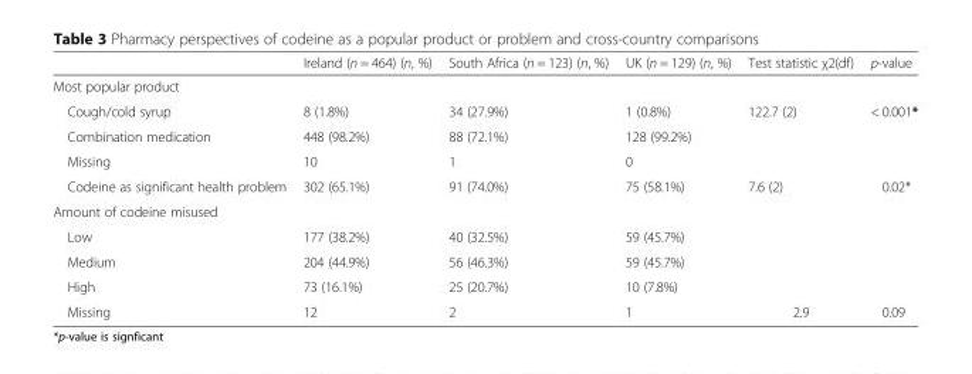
<table><thead><tr><td></td><td>Ireland (n = 464) (n, %)</td><td>South Africa (n = 123) (n, %)</td><td>UK (n = 129) (n, %)</td><td>Test statistic χ2(df)</td><td>p-value</td></tr></thead><tbody><tr><td colspan="6">Most popular product</td></tr><tr><td>Cough/cold syrup</td><td>8 (1.8%)</td><td>34 (27.9%)</td><td>1 (0.8%)</td><td>122.7 (2)</td><td>&lt; 0.001*</td></tr><tr><td>Combination medication</td><td>448 (98.2%)</td><td>88 (72.1%)</td><td>128 (99.2%)</td><td></td><td></td></tr><tr><td>Missing</td><td>10</td><td>1</td><td>0</td><td></td><td></td></tr><tr><td>Codeine as significant health problem</td><td>302 (65.1%)</td><td>91 (74.0%)</td><td>75 (58.1%)</td><td>7.6 (2)</td><td>0.02*</td></tr><tr><td colspan="6">Amount of codeine misused</td></tr><tr><td>Low</td><td>177 (38.2%)</td><td>40 (32.5%)</td><td>59 (45.7%)</td><td></td><td></td></tr><tr><td>Medium</td><td>204 (44.9%)</td><td>56 (46.3%)</td><td>59 (45.7%)</td><td></td><td></td></tr><tr><td>High</td><td>73 (16.1%)</td><td>25 (20.7%)</td><td>10 (7.8%)</td><td></td><td></td></tr><tr><td>Missing</td><td>12</td><td>2</td><td>1</td><td>2.9</td><td>0.09</td></tr></tbody></table>